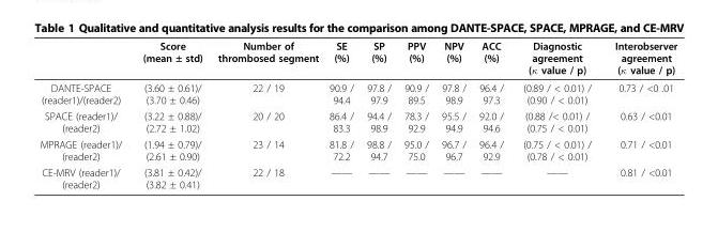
<table><thead><tr><td></td><td>Score (mean ± std)</td><td>Number of thrombosed segment</td><td>SE (%)</td><td>SP (%)</td><td>PPV (%)</td><td>NPV (%)</td><td>ACC (%)</td><td>Diagnostic agreement (κ value / p)</td><td>Interobserver agreement (κ value / p)</td></tr></thead><tbody><tr><td>DANTE-SPACE (reader1)/(reader2)</td><td>(3.60 ± 0.61)/ (3.70 ± 0.46)</td><td>22 / 19</td><td>90.9 / 94.4</td><td>97.8 / 97.9</td><td>90.9 / 89.5</td><td>97.8 / 98.9</td><td>96.4 / 97.3</td><td>(0.89 / &lt; 0.01) / (0.90 / &lt; 0.01)</td><td>0.73 / &lt;0 .01</td></tr><tr><td>SPACE (reader1)/ (reader2)</td><td>(3.22 ± 0.88)/ (2.72 ± 1.02)</td><td>20 / 20</td><td>86.4 / 83.3</td><td>94.4 / 98.9</td><td>78.3 / 92.9</td><td>95.5 / 94.9</td><td>92.0 / 94.6</td><td>(0.88 /&lt; 0.01) / (0.75 / &lt; 0.01)</td><td>0.63 / &lt;0.01</td></tr><tr><td>MPRAGE (reader1)/ (reader2)</td><td>(1.94 ± 0.79)/ (2.61 ± 0.90)</td><td>23 / 14</td><td>81.8 / 72.2</td><td>98.8 / 94.7</td><td>95.0 / 75.0</td><td>96.7 / 96.7</td><td>96.4 / 92.9</td><td>(0.75 / &lt; 0.01) / (0.78 / &lt; 0.01)</td><td>0.71 / &lt;0.01</td></tr><tr><td>CE-MRV (reader1)/ (reader2)</td><td>(3.81 ± 0.42)/ (3.82 ± 0.41)</td><td>22 / 18</td><td>——</td><td>——</td><td>——</td><td>——</td><td>——</td><td>——</td><td>0.81 / &lt;0.01</td></tr></tbody></table>